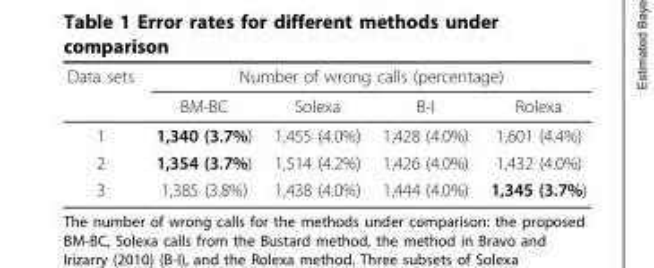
<table><thead><tr><td rowspan="2">Data sets</td><td colspan="4">Number of wrong calls (percentage)</td></tr><tr><td>BM-BC</td><td>Solexa</td><td>B-I</td><td>Rolexa</td></tr></thead><tbody><tr><td>1</td><td>1,340 (3.7%)</td><td>1,455 (4.0%)</td><td>1,428 (4.0%)</td><td>1,601 (4.4%)</td></tr><tr><td>2</td><td>1,354 (3.7%)</td><td>1,514 (4.2%)</td><td>1,426 (4.0%)</td><td>1,432 (4.0%)</td></tr><tr><td>3</td><td>1,385 (3.8%)</td><td>1,438 (4.0%)</td><td>1,444 (4.0%)</td><td>1,345 (3.7%)</td></tr></tbody></table>